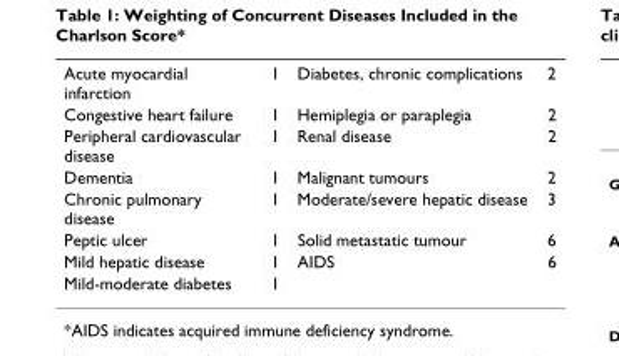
<table><tbody><tr><td>Acute myocardial infarction</td><td>1</td><td>Diabetes, chronic complications</td><td>2</td></tr><tr><td>Congestive heart failure</td><td>1</td><td>Hemiplegia or paraplegia</td><td>2</td></tr><tr><td>Peripheral cardiovascular disease</td><td>1</td><td>Renal disease</td><td>2</td></tr><tr><td>Dementia</td><td>1</td><td>Malignant tumours</td><td>2</td></tr><tr><td>Chronic pulmonary disease</td><td>1</td><td>Moderate/severe hepatic disease</td><td>3</td></tr><tr><td>Peptic ulcer</td><td>1</td><td>Solid metastatic tumour</td><td>6</td></tr><tr><td>Mild hepatic disease</td><td>1</td><td>AIDS</td><td>6</td></tr><tr><td>Mild-moderate diabetes</td><td>1</td><td></td><td></td></tr></tbody></table>